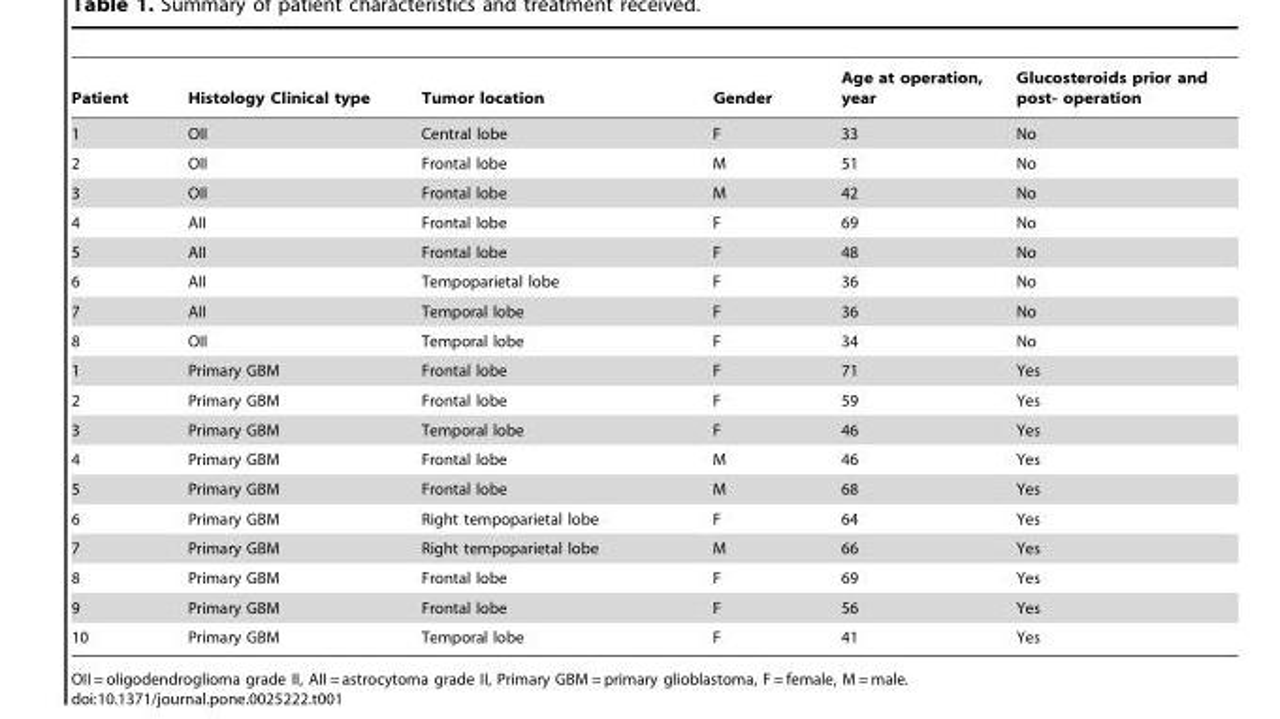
<table><thead><tr><td>Patient</td><td>Histology Clinical type</td><td>Tumor location</td><td>Gender</td><td>Age at operation, year</td><td>Glucosteroids prior and post- operation</td></tr></thead><tbody><tr><td>1</td><td>OII</td><td>Central lobe</td><td>F</td><td>33</td><td>No</td></tr><tr><td>2</td><td>OII</td><td>Frontal lobe</td><td>M</td><td>51</td><td>No</td></tr><tr><td>3</td><td>OII</td><td>Frontal lobe</td><td>M</td><td>42</td><td>No</td></tr><tr><td>4</td><td>AII</td><td>Frontal lobe</td><td>F</td><td>69</td><td>No</td></tr><tr><td>5</td><td>AII</td><td>Frontal lobe</td><td>F</td><td>48</td><td>No</td></tr><tr><td>6</td><td>AII</td><td>Tempoparietal lobe</td><td>F</td><td>36</td><td>No</td></tr><tr><td>7</td><td>AII</td><td>Temporal lobe</td><td>F</td><td>36</td><td>No</td></tr><tr><td>8</td><td>OII</td><td>Temporal lobe</td><td>F</td><td>34</td><td>No</td></tr><tr><td>1</td><td>Primary GBM</td><td>Frontal lobe</td><td>F</td><td>71</td><td>Yes</td></tr><tr><td>2</td><td>Primary GBM</td><td>Frontal lobe</td><td>F</td><td>59</td><td>Yes</td></tr><tr><td>3</td><td>Primary GBM</td><td>Temporal lobe</td><td>F</td><td>46</td><td>Yes</td></tr><tr><td>4</td><td>Primary GBM</td><td>Frontal lobe</td><td>M</td><td>46</td><td>Yes</td></tr><tr><td>5</td><td>Primary GBM</td><td>Frontal lobe</td><td>M</td><td>68</td><td>Yes</td></tr><tr><td>6</td><td>Primary GBM</td><td>Right tempoparietal lobe</td><td>F</td><td>64</td><td>Yes</td></tr><tr><td>7</td><td>Primary GBM</td><td>Right tempoparietal lobe</td><td>M</td><td>66</td><td>Yes</td></tr><tr><td>8</td><td>Primary GBM</td><td>Frontal lobe</td><td>F</td><td>69</td><td>Yes</td></tr><tr><td>9</td><td>Primary GBM</td><td>Frontal lobe</td><td>F</td><td>56</td><td>Yes</td></tr><tr><td>10</td><td>Primary GBM</td><td>Temporal lobe</td><td>F</td><td>41</td><td>Yes</td></tr></tbody></table>